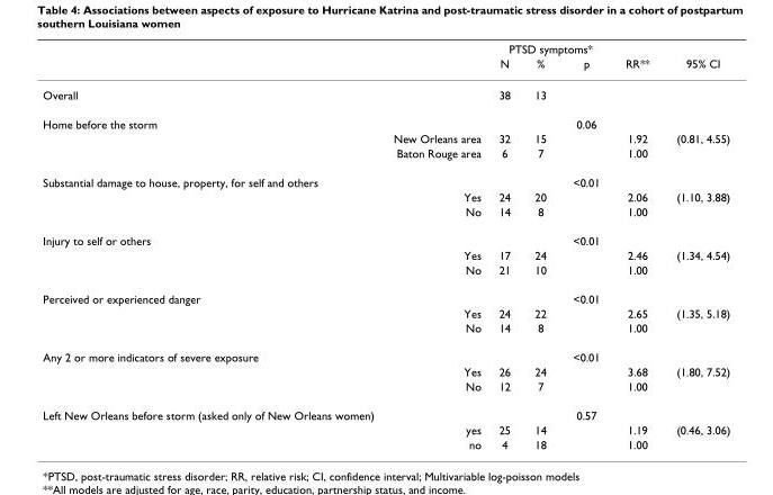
<table><thead><tr><td rowspan="2"></td><td colspan="3">PTSD symptoms*</td><td rowspan="2">RR**</td><td rowspan="2">95% CI</td></tr><tr><td>N</td><td>%</td><td>p</td></tr></thead><tbody><tr><td>Overall</td><td>38</td><td>13</td><td></td><td></td><td></td></tr><tr><td>Home before the storm</td><td></td><td></td><td>0.06</td><td></td><td></td></tr><tr><td>New Orleans area</td><td>32</td><td>15</td><td></td><td>1.92</td><td>(0.81, 4.55)</td></tr><tr><td>Baton Rouge area</td><td>6</td><td>7</td><td></td><td>1.00</td><td></td></tr><tr><td>Substantial damage to house, property, for self and others</td><td></td><td></td><td>&lt;0.01</td><td></td><td></td></tr><tr><td>Yes</td><td>24</td><td>20</td><td></td><td>2.06</td><td>(1.10, 3.88)</td></tr><tr><td>No</td><td>14</td><td>8</td><td></td><td>1.00</td><td></td></tr><tr><td>Injury to self or others</td><td></td><td></td><td>&lt;0.01</td><td></td><td></td></tr><tr><td>Yes</td><td>17</td><td>24</td><td></td><td>2.46</td><td>(1.34, 4.54)</td></tr><tr><td>No</td><td>21</td><td>10</td><td></td><td>1.00</td><td></td></tr><tr><td>Perceived or experienced danger</td><td></td><td></td><td>&lt;0.01</td><td></td><td></td></tr><tr><td>Yes</td><td>24</td><td>22</td><td></td><td>2.65</td><td>(1.35, 5.18)</td></tr><tr><td>No</td><td>14</td><td>8</td><td></td><td>1.00</td><td></td></tr><tr><td>Any 2 or more indicators of severe exposure</td><td></td><td></td><td>&lt;0.01</td><td></td><td></td></tr><tr><td>Yes</td><td>26</td><td>24</td><td></td><td>3.68</td><td>(1.80, 7.52)</td></tr><tr><td>No</td><td>12</td><td>7</td><td></td><td>1.00</td><td></td></tr><tr><td>Left New Orleans before storm (asked only of New Orleans women)</td><td></td><td></td><td>0.57</td><td></td><td></td></tr><tr><td>yes</td><td>25</td><td>14</td><td></td><td>1.19</td><td>(0.46, 3.06)</td></tr><tr><td>no</td><td>4</td><td>18</td><td></td><td>1.00</td><td></td></tr></tbody></table>